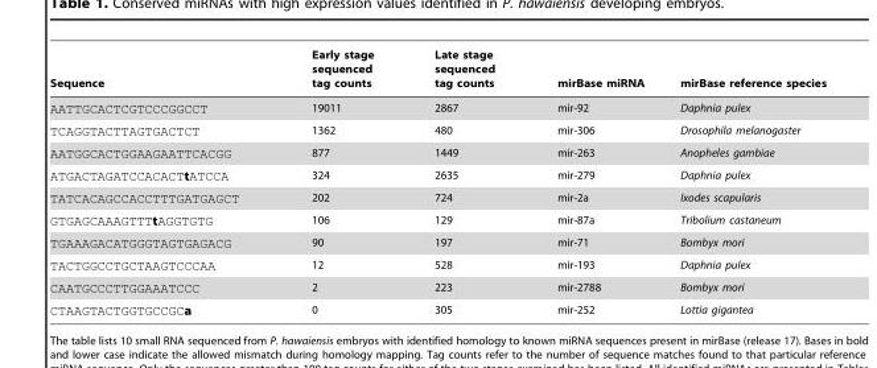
<table><thead><tr><td>Sequence</td><td>Early stage sequenced tag counts</td><td>Late stage sequenced tag counts</td><td>mirBase miRNA</td><td>mirBase reference species</td></tr></thead><tbody><tr><td>AATTGCACTCGTCCCGGCCT</td><td>19011</td><td>2867</td><td>mir-92</td><td>Daphnia pulex</td></tr><tr><td>TCAGGTACTTAGTGACTCT</td><td>1362</td><td>480</td><td>mir-306</td><td>Drosophila melanogaster</td></tr><tr><td>AATGGCACTGGAAGAATTCACGG</td><td>877</td><td>1449</td><td>mir-263</td><td>Anopheles gambiae</td></tr><tr><td>ATGACTAGATCCACACTtATCCA</td><td>324</td><td>2635</td><td>mir-279</td><td>Daphnia pulex</td></tr><tr><td>TATCACAGCCACCTTTGATGAGCT</td><td>202</td><td>724</td><td>mir-2a</td><td>Ixodes scapularis</td></tr><tr><td>GTGAGCAAAGTTTtAGGTGTG</td><td>106</td><td>129</td><td>mir-87a</td><td>Tribolium castaneum</td></tr><tr><td>TGAAAGACATGGGTAGTGAGACG</td><td>90</td><td>197</td><td>mir-71</td><td>Bombyx mori</td></tr><tr><td>TACTGGCCTGCTAAGTCCCAA</td><td>12</td><td>528</td><td>mir-193</td><td>Daphnia pulex</td></tr><tr><td>CAATGCCCTTGGAAATCCC</td><td>2</td><td>223</td><td>mir-2788</td><td>Bombyx mori</td></tr><tr><td>CTAAGTACTGGTGCCGCa</td><td>0</td><td>305</td><td>mir-252</td><td>Lottia gigantea</td></tr></tbody></table>